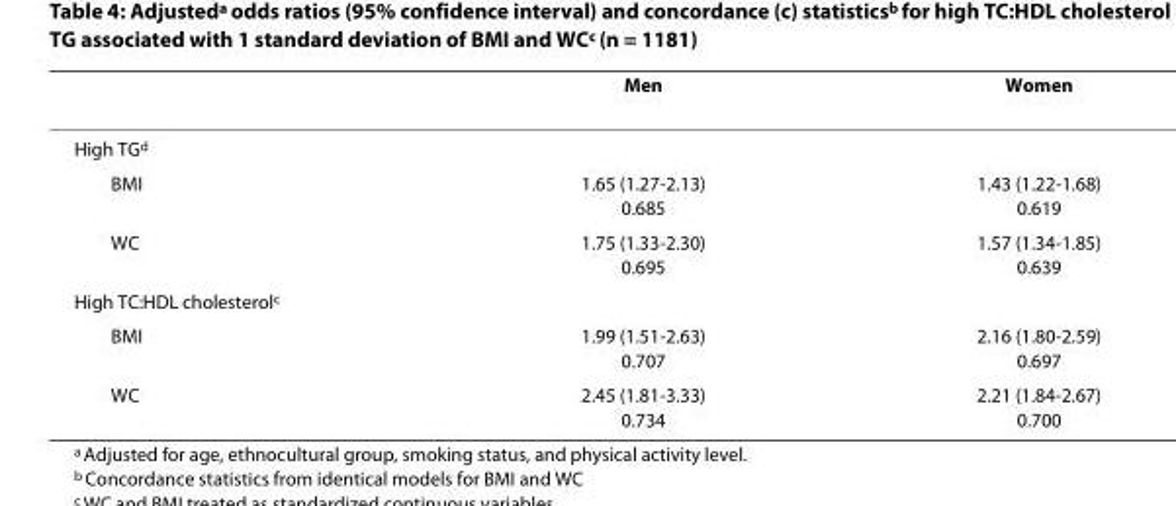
<table><thead><tr><td></td><td>Men</td><td>Women</td></tr></thead><tbody><tr><td colspan="3">High TG<sup>d</sup></td></tr><tr><td>BMI</td><td>1.65 (1.27-2.13) 0.685</td><td>1.43 (1.22-1.68) 0.619</td></tr><tr><td>WC</td><td>1.75 (1.33-2.30) 0.695</td><td>1.57 (1.34-1.85) 0.639</td></tr><tr><td colspan="3">High TC:HDL cholesterol<sup>c</sup></td></tr><tr><td>BMI</td><td>1.99 (1.51-2.63) 0.707</td><td>2.16 (1.80-2.59) 0.697</td></tr><tr><td>WC</td><td>2.45 (1.81-3.33) 0.734</td><td>2.21 (1.84-2.67) 0.700</td></tr></tbody></table>